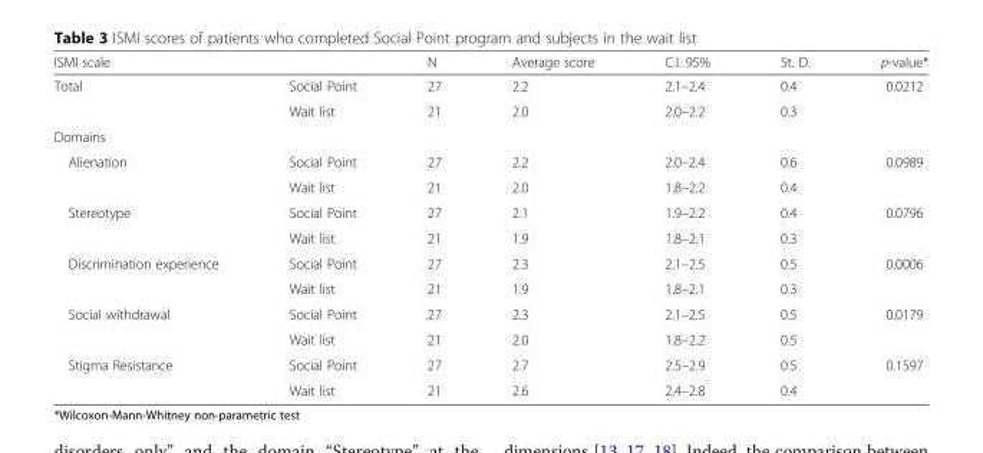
<table><thead><tr><td>ISMI scale</td><td></td><td>N</td><td>Average score</td><td>C.I. 95%</td><td>St. D.</td><td>p-value*</td></tr></thead><tbody><tr><td rowspan="2">Total</td><td>Social Point</td><td>27</td><td>2.2</td><td>2.1–2.4</td><td>0.4</td><td rowspan="2">0.0212</td></tr><tr><td>Wait list</td><td>21</td><td>2.0</td><td>2.0–2.2</td><td>0.3</td></tr><tr><td colspan="7">Domains</td></tr><tr><td rowspan="2">Alienation</td><td>Social Point</td><td>27</td><td>2.2</td><td>2.0–2.4</td><td>0.6</td><td rowspan="2">0.0989</td></tr><tr><td>Wait list</td><td>21</td><td>2.0</td><td>1.8–2.2</td><td>0.4</td></tr><tr><td rowspan="2">Stereotype</td><td>Social Point</td><td>27</td><td>2.1</td><td>1.9–2.2</td><td>0.4</td><td rowspan="2">0.0796</td></tr><tr><td>Wait list</td><td>21</td><td>1.9</td><td>1.8–2.1</td><td>0.3</td></tr><tr><td rowspan="2">Discrimination experience</td><td>Social Point</td><td>27</td><td>2.3</td><td>2.1–2.5</td><td>0.5</td><td rowspan="2">0.0006</td></tr><tr><td>Wait list</td><td>21</td><td>1.9</td><td>1.8–2.1</td><td>0.3</td></tr><tr><td rowspan="2">Social withdrawal</td><td>Social Point</td><td>27</td><td>2.3</td><td>2.1–2.5</td><td>0.5</td><td rowspan="2">0.0179</td></tr><tr><td>Wait list</td><td>21</td><td>2.0</td><td>1.8–2.2</td><td>0.5</td></tr><tr><td rowspan="2">Stigma Resistance</td><td>Social Point</td><td>27</td><td>2.7</td><td>2.5–2.9</td><td>0.5</td><td rowspan="2">0.1597</td></tr><tr><td>Wait list</td><td>21</td><td>2.6</td><td>2.4–2.8</td><td>0.4</td></tr></tbody></table>